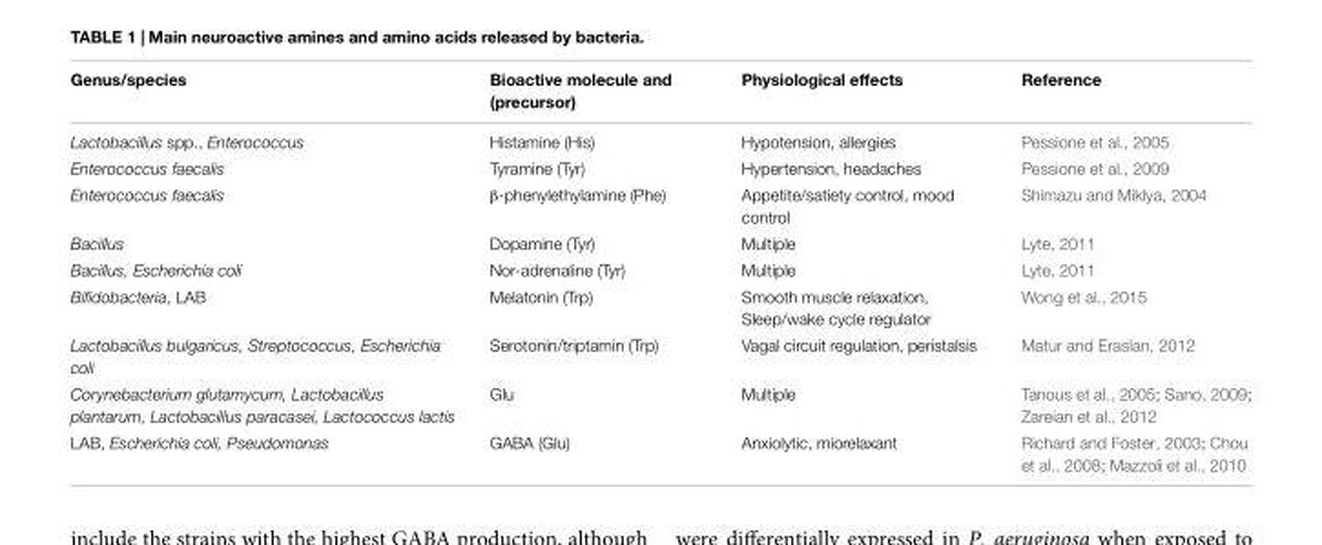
<table><thead><tr><td>Genus/species</td><td>Bioactive molecule and (precursor)</td><td>Physiological effects</td><td>Reference</td></tr></thead><tbody><tr><td>Lactobacillus spp., Enterococcus</td><td>Histamine (His)</td><td>Hypotension, allergies</td><td>Pessione et al., 2005</td></tr><tr><td>Enterococcus faecalis</td><td>Tyramine (Tyr)</td><td>Hypertension, headaches</td><td>Pessione et al., 2009</td></tr><tr><td>Enterococcus faecalis</td><td>β-phenylethylamine (Phe)</td><td>Appetite/satiety control, mood control</td><td>Shimazu and Miklya, 2004</td></tr><tr><td>Bacillus</td><td>Dopamine (Tyr)</td><td>Multiple</td><td>Lyte, 2011</td></tr><tr><td>Bacillus, Escherichia coli</td><td>Nor-adrenaline (Tyr)</td><td>Multiple</td><td>Lyte, 2011</td></tr><tr><td>Bifidobacteria, LAB</td><td>Melatonin (Trp)</td><td>Smooth muscle relaxation, Sleep/wake cycle regulator</td><td>Wong et al., 2015</td></tr><tr><td>Lactobacillus bulgaricus, Streptococcus, Escherichia coli</td><td>Serotonin/triptamin (Trp)</td><td>Vagal circuit regulation, peristalsis</td><td>Matur and Eraslan, 2012</td></tr><tr><td>Corynebacterium glutamycum, Lactobacillus plantarum, Lactobacillus paracasei, Lactococcus lactis</td><td>Glu</td><td>Multiple</td><td>Tanous et al., 2005; Sano, 2009; Zareian et al., 2012</td></tr><tr><td>LAB, Escherichia coli, Pseudomonas</td><td>GABA (Glu)</td><td>Anxiolytic, miorelaxant</td><td>Richard and Foster, 2003; Chou et al., 2008; Mazzoli et al., 2010</td></tr></tbody></table>